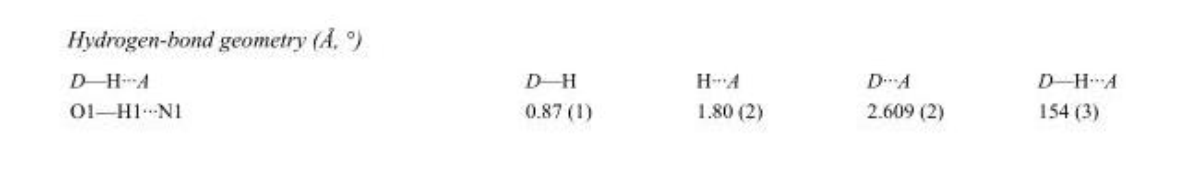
<table><tbody><tr><td>D—H···A</td><td>D—H</td><td>H···A</td><td>D···A</td><td>D—H···A</td></tr><tr><td>O1—H1···N1</td><td>0.87 (1)</td><td>1.80 (2)</td><td>2.609 (2)</td><td>154 (3)</td></tr></tbody></table>